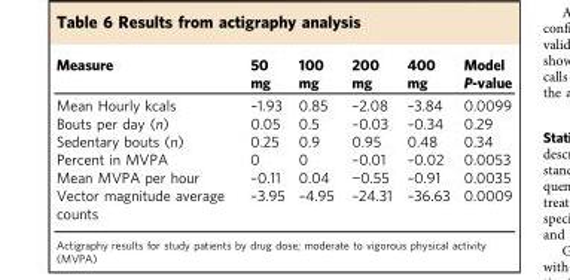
<table><thead><tr><td>Measure</td><td>50 mg</td><td>100 mg</td><td>200 mg</td><td>400 mg</td><td>Model P-value</td></tr></thead><tbody><tr><td>Mean Hourly kcals</td><td>–1.93</td><td>0.85</td><td>–2.08</td><td>–3.84</td><td>0.0099</td></tr><tr><td>Bouts per day (n)</td><td>0.05</td><td>0.5</td><td>–0.03</td><td>–0.34</td><td>0.29</td></tr><tr><td>Sedentary bouts (n)</td><td>0.25</td><td>0.9</td><td>0.95</td><td>0.48</td><td>0.34</td></tr><tr><td>Percent in MVPA</td><td>0</td><td>0</td><td>–0.01</td><td>–0.02</td><td>0.0053</td></tr><tr><td>Mean MVPA per hour</td><td>–0.11</td><td>0.04</td><td>−0.55</td><td>–0.91</td><td>0.0035</td></tr><tr><td>Vector magnitude average counts</td><td>–3.95</td><td>–4.95</td><td>–24.31</td><td>–36.63</td><td>0.0009</td></tr></tbody></table>